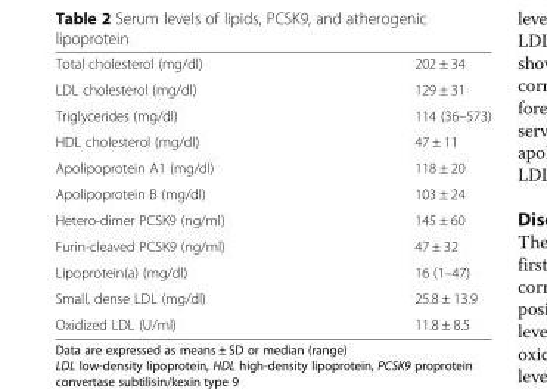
<table><tbody><tr><td>Total cholesterol (mg/dl)</td><td>202 ± 34</td></tr><tr><td>LDL cholesterol (mg/dl)</td><td>129 ± 31</td></tr><tr><td>Triglycerides (mg/dl)</td><td>114 (36–573)</td></tr><tr><td>HDL cholesterol (mg/dl)</td><td>47 ± 11</td></tr><tr><td>Apolipoprotein A1 (mg/dl)</td><td>118 ± 20</td></tr><tr><td>Apolipoprotein B (mg/dl)</td><td>103 ± 24</td></tr><tr><td>Hetero-dimer PCSK9 (ng/ml)</td><td>145 ± 60</td></tr><tr><td>Furin-cleaved PCSK9 (ng/ml)</td><td>47 ± 32</td></tr><tr><td>Lipoprotein(a) (mg/dl)</td><td>16 (1–47)</td></tr><tr><td>Small, dense LDL (mg/dl)</td><td>25.8 ± 13.9</td></tr><tr><td>Oxidized LDL (U/ml)</td><td>11.8 ± 8.5</td></tr></tbody></table>